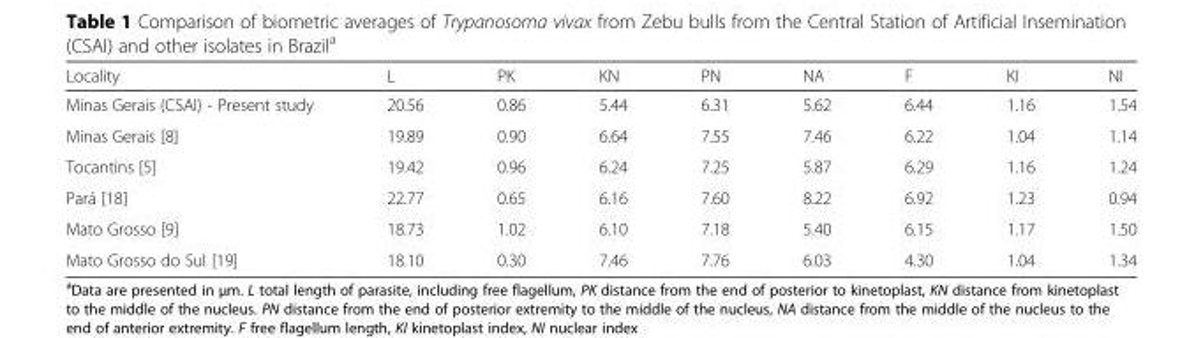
<table><thead><tr><td>Locality</td><td>L</td><td>PK</td><td>KN</td><td>PN</td><td>NA</td><td>F</td><td>KI</td><td>NI</td></tr></thead><tbody><tr><td>Minas Gerais (CSAI) - Present study</td><td>20.56</td><td>0.86</td><td>5.44</td><td>6.31</td><td>5.62</td><td>6.44</td><td>1.16</td><td>1.54</td></tr><tr><td>Minas Gerais [8]</td><td>19.89</td><td>0.90</td><td>6.64</td><td>7.55</td><td>7.46</td><td>6.22</td><td>1.04</td><td>1.14</td></tr><tr><td>Tocantins [5]</td><td>19.42</td><td>0.96</td><td>6.24</td><td>7.25</td><td>5.87</td><td>6.29</td><td>1.16</td><td>1.24</td></tr><tr><td>Pará [18]</td><td>22.77</td><td>0.65</td><td>6.16</td><td>7.60</td><td>8.22</td><td>6.92</td><td>1.23</td><td>0.94</td></tr><tr><td>Mato Grosso [9]</td><td>18.73</td><td>1.02</td><td>6.10</td><td>7.18</td><td>5.40</td><td>6.15</td><td>1.17</td><td>1.50</td></tr><tr><td>Mato Grosso do Sul [19]</td><td>18.10</td><td>0.30</td><td>7.46</td><td>7.76</td><td>6.03</td><td>4.30</td><td>1.04</td><td>1.34</td></tr></tbody></table>